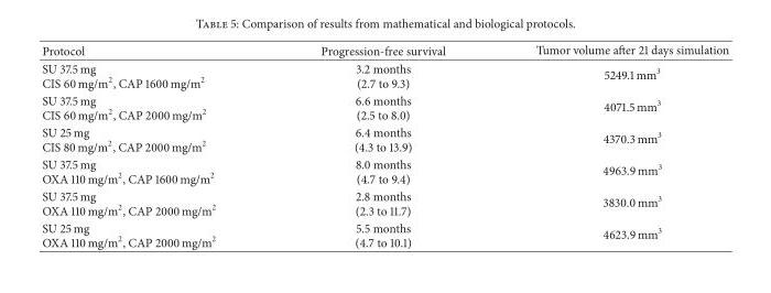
<table><thead><tr><td>Protocol</td><td>Progression-free survival</td><td>Tumor volume after 21 days simulation</td></tr></thead><tbody><tr><td>SU 37.5 mg CIS 60 mg/m<sup>2</sup>, CAP 1600 mg/m<sup>2</sup></td><td>3.2 months (2.7 to 9.3)</td><td>5249.1 mm<sup>3</sup></td></tr><tr><td>SU 37.5 mg CIS 60 mg/m<sup>2</sup>, CAP 2000 mg/m<sup>2</sup></td><td>6.6 months (2.5 to 8.0)</td><td>4071.5 mm<sup>3</sup></td></tr><tr><td>SU 25 mg CIS 80 mg/m<sup>2</sup>, CAP 2000 mg/m<sup>2</sup></td><td>6.4 months (4.3 to 13.9)</td><td>4370.3 mm<sup>3</sup></td></tr><tr><td>SU 37.5 mg OXA 110 mg/m<sup>2</sup>, CAP 1600 mg/m<sup>2</sup></td><td>8.0 months (4.7 to 9.4)</td><td>4963.9 mm<sup>3</sup></td></tr><tr><td>SU 37.5 mg OXA 110 mg/m<sup>2</sup>, CAP 2000 mg/m<sup>2</sup></td><td>2.8 months (2.3 to 11.7)</td><td>3830.0 mm<sup>3</sup></td></tr><tr><td>SU 25 mg OXA 110 mg/m<sup>2</sup>, CAP 2000 mg/m<sup>2</sup></td><td>5.5 months (4.7 to 10.1)</td><td>4623.9 mm<sup>3</sup></td></tr></tbody></table>